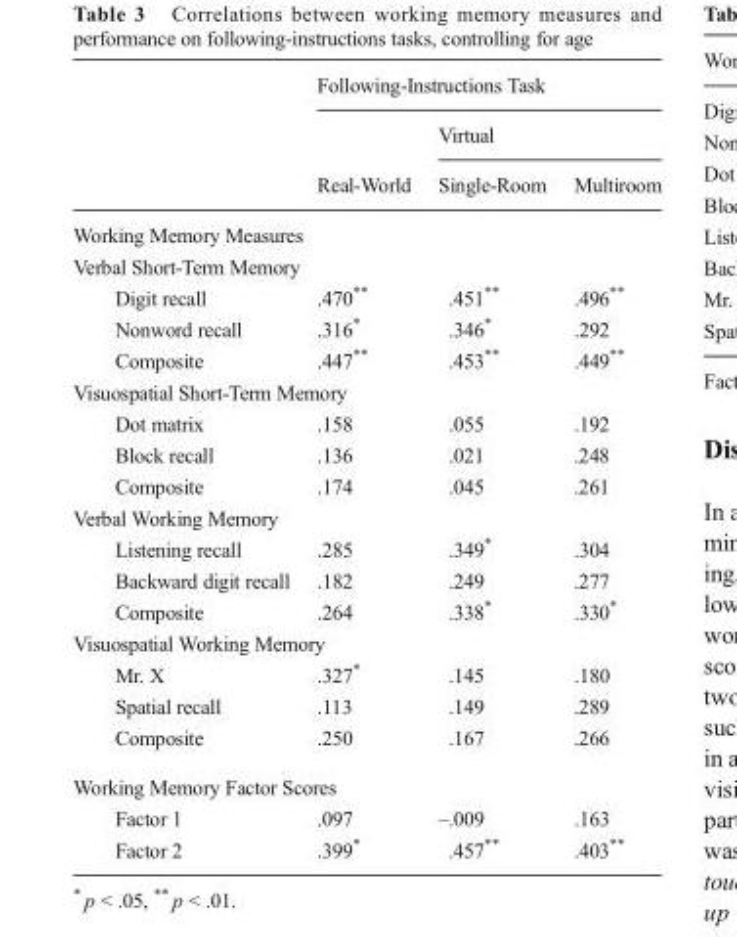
<table><thead><tr><td rowspan="3"></td><td colspan="3">Following-Instructions Task</td></tr><tr><td rowspan="2">Real-World</td><td colspan="2">Virtual</td></tr><tr><td>Single-Room</td><td>Multiroom</td></tr></thead><tbody><tr><td colspan="4">Working Memory Measures</td></tr><tr><td colspan="4">Verbal Short-Term Memory</td></tr><tr><td>Digit recall</td><td>.470**</td><td>.451**</td><td>.496**</td></tr><tr><td>Nonword recall</td><td>.316*</td><td>.346*</td><td>.292</td></tr><tr><td>Composite</td><td>.447**</td><td>.453**</td><td>.449**</td></tr><tr><td colspan="4">Visuospatial Short-Term Memory</td></tr><tr><td>Dot matrix</td><td>.158</td><td>.055</td><td>.192</td></tr><tr><td>Block recall</td><td>.136</td><td>.021</td><td>.248</td></tr><tr><td>Composite</td><td>.174</td><td>.045</td><td>.261</td></tr><tr><td colspan="4">Verbal Working Memory</td></tr><tr><td>Listening recall</td><td>.285</td><td>.349*</td><td>.304</td></tr><tr><td>Backward digit recall</td><td>.182</td><td>.249</td><td>.277</td></tr><tr><td>Composite</td><td>.264</td><td>.338*</td><td>.330*</td></tr><tr><td colspan="4">Visuospatial Working Memory</td></tr><tr><td>Mr. X</td><td>.327*</td><td>.145</td><td>.180</td></tr><tr><td>Spatial recall</td><td>.113</td><td>.149</td><td>.289</td></tr><tr><td>Composite</td><td>.250</td><td>.167</td><td>.266</td></tr><tr><td colspan="4">Working Memory Factor Scores</td></tr><tr><td>Factor 1</td><td>.097</td><td>–.009</td><td>.163</td></tr><tr><td>Factor 2</td><td>.399*</td><td>.457**</td><td>.403**</td></tr></tbody></table>